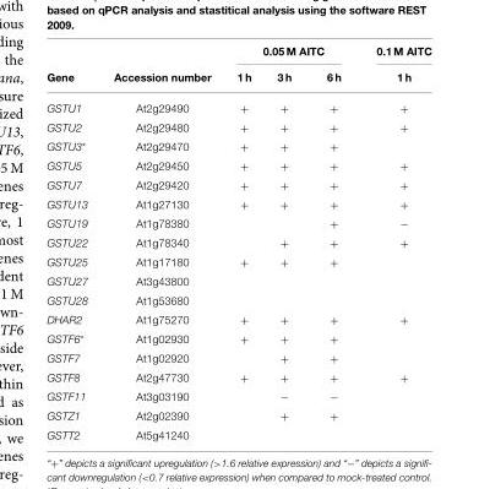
<table><thead><tr><td rowspan="2">Gene</td><td rowspan="2">Accession number</td><td colspan="3">0.05 M AITC</td><td rowspan="2">0.1 M AITC 1 h</td></tr><tr><td>1 h</td><td>3 h</td><td>6 h</td></tr></thead><tbody><tr><td>GSTU1</td><td>At2g29490</td><td>+</td><td>+</td><td>+</td><td>+</td></tr><tr><td>GSTU2</td><td>At2g29480</td><td>+</td><td>+</td><td>+</td><td>+</td></tr><tr><td>GSTU3*</td><td>At2g29470</td><td>+</td><td>+</td><td>+</td><td></td></tr><tr><td>GSTU5</td><td>At2g29450</td><td>+</td><td>+</td><td>+</td><td>+</td></tr><tr><td>GSTU7</td><td>At2g29420</td><td>+</td><td>+</td><td>+</td><td>+</td></tr><tr><td>GSTU13</td><td>At1g27130</td><td>+</td><td>+</td><td>+</td><td>+</td></tr><tr><td>GSTU19</td><td>At1g78380</td><td></td><td></td><td>+</td><td>−</td></tr><tr><td>GSTU22</td><td>At1g78340</td><td></td><td>+</td><td>+</td><td>+</td></tr><tr><td>GSTU25</td><td>At1g17180</td><td>+</td><td>+</td><td>+</td><td></td></tr><tr><td>GSTU27</td><td>At3g43800</td><td></td><td></td><td></td><td></td></tr><tr><td>GSTU28</td><td>At1g53680</td><td></td><td></td><td></td><td></td></tr><tr><td>DHAR2</td><td>At1g75270</td><td>+</td><td>+</td><td>+</td><td>+</td></tr><tr><td>GSTF6*</td><td>At1g02930</td><td>+</td><td>+</td><td>+</td><td></td></tr><tr><td>GSTF7</td><td>At1g02920</td><td></td><td>+</td><td>+</td><td></td></tr><tr><td>GSTF8</td><td>At2g47730</td><td>+</td><td>+</td><td>+</td><td>+</td></tr><tr><td>GSTF11</td><td>At3g03190</td><td></td><td>−</td><td>−</td><td></td></tr><tr><td>GSTZ1</td><td>At2g02390</td><td></td><td>+</td><td>+</td><td></td></tr><tr><td>GSTT2</td><td>At5g41240</td><td></td><td></td><td></td><td></td></tr></tbody></table>